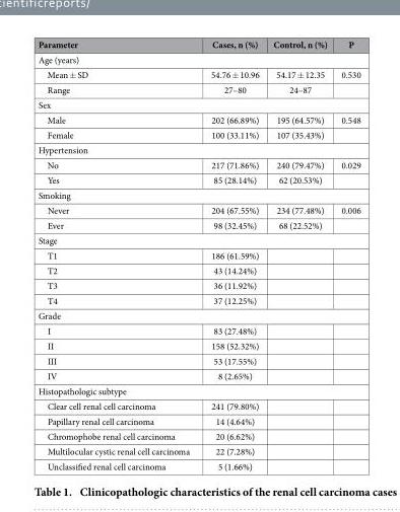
<table><thead><tr><td>Parameter</td><td>Cases, n (%)</td><td>Control, n (%)</td><td>P</td></tr></thead><tbody><tr><td colspan="4">Age (years)</td></tr><tr><td>Mean ± SD</td><td>54.76 ± 10.96</td><td>54.17 ± 12.35</td><td>0.530</td></tr><tr><td>Range</td><td>27–80</td><td>24–87</td><td></td></tr><tr><td colspan="4">Sex</td></tr><tr><td>Male</td><td>202 (66.89%)</td><td>195 (64.57%)</td><td>0.548</td></tr><tr><td>Female</td><td>100 (33.11%)</td><td>107 (35.43%)</td><td></td></tr><tr><td colspan="4">Hypertension</td></tr><tr><td>No</td><td>217 (71.86%)</td><td>240 (79.47%)</td><td>0.029</td></tr><tr><td>Yes</td><td>85 (28.14%)</td><td>62 (20.53%)</td><td></td></tr><tr><td colspan="4">Smoking</td></tr><tr><td>Never</td><td>204 (67.55%)</td><td>234 (77.48%)</td><td>0.006</td></tr><tr><td>Ever</td><td>98 (32.45%)</td><td>68 (22.52%)</td><td></td></tr><tr><td colspan="4">Stage</td></tr><tr><td>T1</td><td>186 (61.59%)</td><td></td><td></td></tr><tr><td>T2</td><td>43 (14.24%)</td><td></td><td></td></tr><tr><td>T3</td><td>36 (11.92%)</td><td></td><td></td></tr><tr><td>T4</td><td>37 (12.25%)</td><td></td><td></td></tr><tr><td colspan="4">Grade</td></tr><tr><td>I</td><td>83 (27.48%)</td><td></td><td></td></tr><tr><td>II</td><td>158 (52.32%)</td><td></td><td></td></tr><tr><td>III</td><td>53 (17.55%)</td><td></td><td></td></tr><tr><td>IV</td><td>8 (2.65%)</td><td></td><td></td></tr><tr><td colspan="4">Histopathologic subtype</td></tr><tr><td>Clear cell renal cell carcinoma</td><td>241 (79.80%)</td><td></td><td></td></tr><tr><td>Papillary renal cell carcinoma</td><td>14 (4.64%)</td><td></td><td></td></tr><tr><td>Chromophobe renal cell carcinoma</td><td>20 (6.62%)</td><td></td><td></td></tr><tr><td>Multilocular cystic renal cell carcinoma</td><td>22 (7.28%)</td><td></td><td></td></tr><tr><td>Unclassified renal cell carcinoma</td><td>5 (1.66%)</td><td></td><td></td></tr></tbody></table>